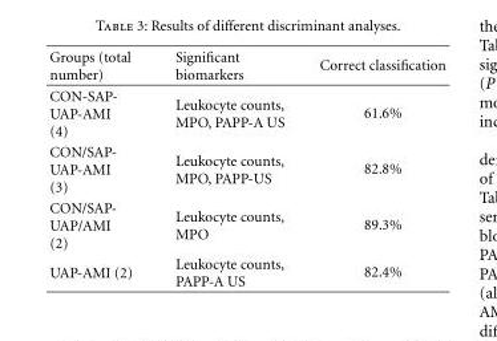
<table><thead><tr><td>Groups (total number)</td><td>Significant biomarkers</td><td>Correct classification</td></tr></thead><tbody><tr><td>CON-SAP- UAP-AMI (4)</td><td>Leukocyte counts, MPO, PAPP-A US</td><td>61.6%</td></tr><tr><td>CON/SAP- UAP-AMI (3)</td><td>Leukocyte counts, MPO, PAPP-US</td><td>82.8%</td></tr><tr><td>CON/SAP- UAP/AMI (2)</td><td>Leukocyte counts, MPO</td><td>89.3%</td></tr><tr><td>UAP-AMI (2)</td><td>Leukocyte counts, PAPP-A US</td><td>82.4%</td></tr></tbody></table>